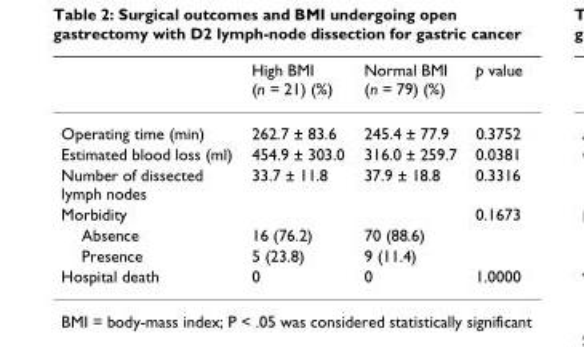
<table><thead><tr><td></td><td>High BMI (n = 21) (%)</td><td>Normal BMI (n = 79) (%)</td><td>p value</td></tr></thead><tbody><tr><td>Operating time (min)</td><td>262.7 ± 83.6</td><td>245.4 ± 77.9</td><td>0.3752</td></tr><tr><td>Estimated blood loss (ml)</td><td>454.9 ± 303.0</td><td>316.0 ± 259.7</td><td>0.0381</td></tr><tr><td>Number of dissected lymph nodes</td><td>33.7 ± 11.8</td><td>37.9 ± 18.8</td><td>0.3316</td></tr><tr><td>Morbidity</td><td></td><td></td><td>0.1673</td></tr><tr><td>Absence</td><td>16 (76.2)</td><td>70 (88.6)</td><td></td></tr><tr><td>Presence</td><td>5 (23.8)</td><td>9 (11.4)</td><td></td></tr><tr><td>Hospital death</td><td>0</td><td>0</td><td>1.0000</td></tr></tbody></table>